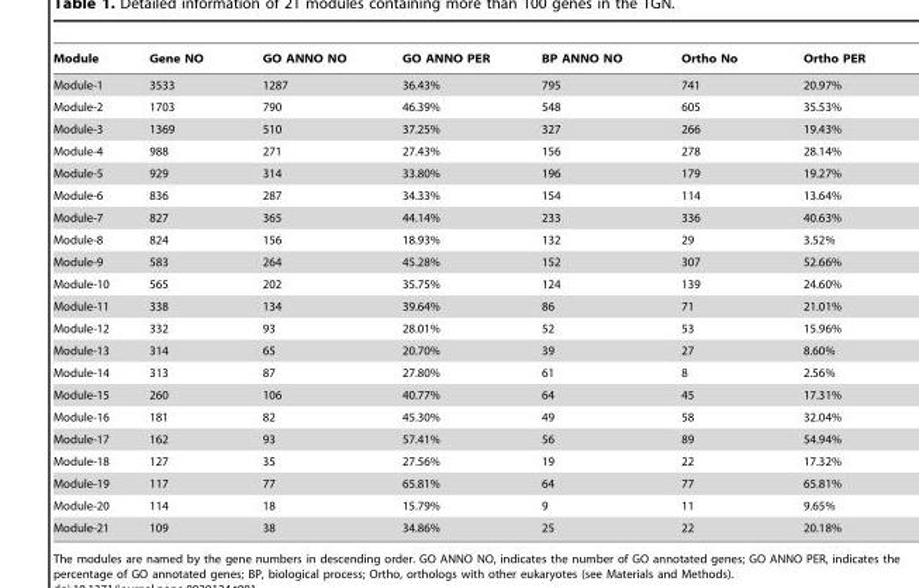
<table><thead><tr><td>Module</td><td>Gene NO</td><td>GO ANNO NO</td><td>GO ANNO PER</td><td>BP ANNO NO</td><td>Ortho No</td><td>Ortho PER</td></tr></thead><tbody><tr><td>Module-1</td><td>3533</td><td>1287</td><td>36.43%</td><td>795</td><td>741</td><td>20.97%</td></tr><tr><td>Module-2</td><td>1703</td><td>790</td><td>46.39%</td><td>548</td><td>605</td><td>35.53%</td></tr><tr><td>Module-3</td><td>1369</td><td>510</td><td>37.25%</td><td>327</td><td>266</td><td>19.43%</td></tr><tr><td>Module-4</td><td>988</td><td>271</td><td>27.43%</td><td>156</td><td>278</td><td>28.14%</td></tr><tr><td>Module-5</td><td>929</td><td>314</td><td>33.80%</td><td>196</td><td>179</td><td>19.27%</td></tr><tr><td>Module-6</td><td>836</td><td>287</td><td>34.33%</td><td>154</td><td>114</td><td>13.64%</td></tr><tr><td>Module-7</td><td>827</td><td>365</td><td>44.14%</td><td>233</td><td>336</td><td>40.63%</td></tr><tr><td>Module-8</td><td>824</td><td>156</td><td>18.93%</td><td>132</td><td>29</td><td>3.52%</td></tr><tr><td>Module-9</td><td>583</td><td>264</td><td>45.28%</td><td>152</td><td>307</td><td>52.66%</td></tr><tr><td>Module-10</td><td>565</td><td>202</td><td>35.75%</td><td>124</td><td>139</td><td>24.60%</td></tr><tr><td>Module-11</td><td>338</td><td>134</td><td>39.64%</td><td>86</td><td>71</td><td>21.01%</td></tr><tr><td>Module-12</td><td>332</td><td>93</td><td>28.01%</td><td>52</td><td>53</td><td>15.96%</td></tr><tr><td>Module-13</td><td>314</td><td>65</td><td>20.70%</td><td>39</td><td>27</td><td>8.60%</td></tr><tr><td>Module-14</td><td>313</td><td>87</td><td>27.80%</td><td>61</td><td>8</td><td>2.56%</td></tr><tr><td>Module-15</td><td>260</td><td>106</td><td>40.77%</td><td>64</td><td>45</td><td>17.31%</td></tr><tr><td>Module-16</td><td>181</td><td>82</td><td>45.30%</td><td>49</td><td>58</td><td>32.04%</td></tr><tr><td>Module-17</td><td>162</td><td>93</td><td>57.41%</td><td>56</td><td>89</td><td>54.94%</td></tr><tr><td>Module-18</td><td>127</td><td>35</td><td>27.56%</td><td>19</td><td>22</td><td>17.32%</td></tr><tr><td>Module-19</td><td>117</td><td>77</td><td>65.81%</td><td>64</td><td>77</td><td>65.81%</td></tr><tr><td>Module-20</td><td>114</td><td>18</td><td>15.79%</td><td>9</td><td>11</td><td>9.65%</td></tr><tr><td>Module-21</td><td>109</td><td>38</td><td>34.86%</td><td>25</td><td>22</td><td>20.18%</td></tr></tbody></table>